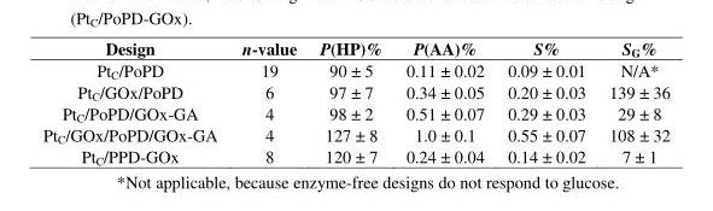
<table><thead><tr><td>Design</td><td>n-value</td><td>P(HP)%</td><td>P(AA)%</td><td>S%</td><td>S<sub>G</sub>%</td></tr></thead><tbody><tr><td>Pt<sub>C</sub>/PoPD</td><td>19</td><td>90 ± 5</td><td>0.11 ± 0.02</td><td>0.09 ± 0.01</td><td>N/A*</td></tr><tr><td>Pt<sub>C</sub>/GOx/PoPD</td><td>6</td><td>97 ± 7</td><td>0.34 ± 0.05</td><td>0.20 ± 0.03</td><td>139 ± 36</td></tr><tr><td>Pt<sub>C</sub>/PoPD/GOx-GA</td><td>4</td><td>98 ± 2</td><td>0.51 ± 0.07</td><td>0.29 ± 0.03</td><td>29 ± 8</td></tr><tr><td>Pt<sub>C</sub>/GOx/PoPD/GOx-GA</td><td>4</td><td>127 ± 8</td><td>1.0 ± 0.1</td><td>0.55 ± 0.07</td><td>108 ± 32</td></tr><tr><td>Pt<sub>C</sub>/PPD-GOx</td><td>8</td><td>120 ± 7</td><td>0.24 ± 0.04</td><td>0.14 ± 0.02</td><td>7 ± 1</td></tr></tbody></table>